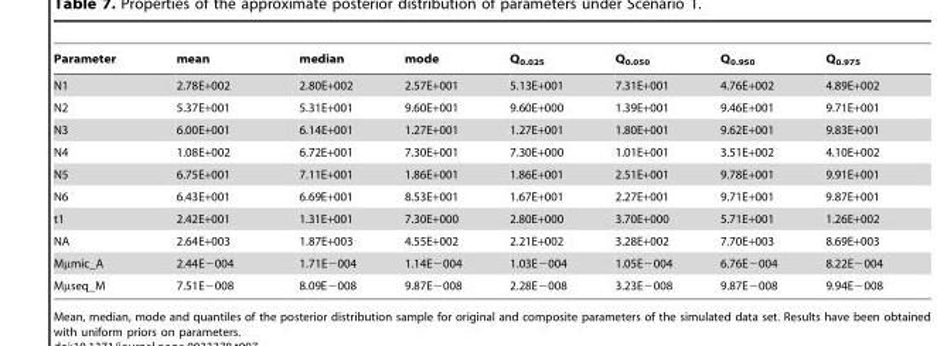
<table><thead><tr><td>Parameter</td><td>mean</td><td>median</td><td>mode</td><td>Q<sub>0.025</sub></td><td>Q<sub>0.050</sub></td><td>Q<sub>0.950</sub></td><td>Q<sub>0.975</sub></td></tr></thead><tbody><tr><td>N1</td><td>2.78E+002</td><td>2.80E+002</td><td>2.57E+001</td><td>5.13E+001</td><td>7.31E+001</td><td>4.76E+002</td><td>4.89E+002</td></tr><tr><td>N2</td><td>5.37E+001</td><td>5.31E+001</td><td>9.60E+001</td><td>9.60E+000</td><td>1.39E+001</td><td>9.46E+001</td><td>9.71E+001</td></tr><tr><td>N3</td><td>6.00E+001</td><td>6.14E+001</td><td>1.27E+001</td><td>1.27E+001</td><td>1.80E+001</td><td>9.62E+001</td><td>9.83E+001</td></tr><tr><td>N4</td><td>1.08E+002</td><td>6.72E+001</td><td>7.30E+001</td><td>7.30E+000</td><td>1.01E+001</td><td>3.51E+002</td><td>4.10E+002</td></tr><tr><td>N5</td><td>6.75E+001</td><td>7.11E+001</td><td>1.86E+001</td><td>1.86E+001</td><td>2.51E+001</td><td>9.78E+001</td><td>9.91E+001</td></tr><tr><td>N6</td><td>6.43E+001</td><td>6.69E+001</td><td>8.53E+001</td><td>1.67E+001</td><td>2.27E+001</td><td>9.71E+001</td><td>9.87E+001</td></tr><tr><td>t1</td><td>2.42E+001</td><td>1.31E+001</td><td>7.30E+000</td><td>2.80E+000</td><td>3.70E+000</td><td>5.71E+001</td><td>1.26E+002</td></tr><tr><td>NA</td><td>2.64E+003</td><td>1.87E+003</td><td>4.55E+002</td><td>2.21E+002</td><td>3.28E+002</td><td>7.70E+003</td><td>8.69E+003</td></tr><tr><td>Mμmic_A</td><td>2.44E−004</td><td>1.71E−004</td><td>1.14E−004</td><td>1.03E−004</td><td>1.05E−004</td><td>6.76E−004</td><td>8.22E−004</td></tr><tr><td>Mμseq_M</td><td>7.51E−008</td><td>8.09E−008</td><td>9.87E−008</td><td>2.28E−008</td><td>3.23E−008</td><td>9.87E−008</td><td>9.94E−008</td></tr></tbody></table>